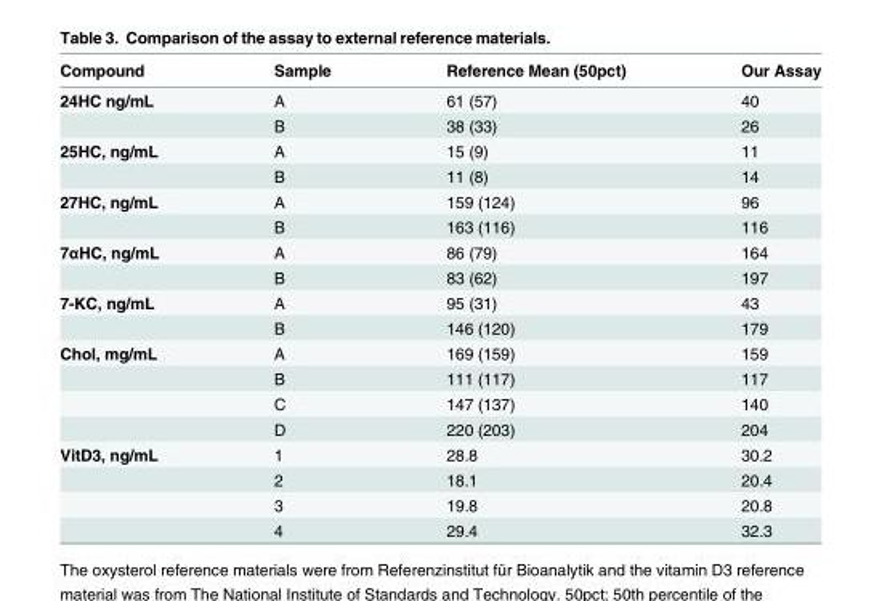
<table><thead><tr><td>Compound</td><td>Sample</td><td>Reference Mean (50pct)</td><td>Our Assay</td></tr></thead><tbody><tr><td rowspan="2">24HC ng/mL</td><td>A</td><td>61 (57)</td><td>40</td></tr><tr><td>B</td><td>38 (33)</td><td>26</td></tr><tr><td rowspan="2">25HC, ng/mL</td><td>A</td><td>15 (9)</td><td>11</td></tr><tr><td>B</td><td>11 (8)</td><td>14</td></tr><tr><td rowspan="2">27HC, ng/mL</td><td>A</td><td>159 (124)</td><td>96</td></tr><tr><td>B</td><td>163 (116)</td><td>116</td></tr><tr><td rowspan="2">7αHC, ng/mL</td><td>A</td><td>86 (79)</td><td>164</td></tr><tr><td>B</td><td>83 (62)</td><td>197</td></tr><tr><td rowspan="2">7-KC, ng/mL</td><td>A</td><td>95 (31)</td><td>43</td></tr><tr><td>B</td><td>146 (120)</td><td>179</td></tr><tr><td rowspan="4">Chol, mg/mL</td><td>A</td><td>169 (159)</td><td>159</td></tr><tr><td>B</td><td>111 (117)</td><td>117</td></tr><tr><td>C</td><td>147 (137)</td><td>140</td></tr><tr><td>D</td><td>220 (203)</td><td>204</td></tr><tr><td rowspan="4">VitD3, ng/mL</td><td>1</td><td>28.8</td><td>30.2</td></tr><tr><td>2</td><td>18.1</td><td>20.4</td></tr><tr><td>3</td><td>19.8</td><td>20.8</td></tr><tr><td>4</td><td>29.4</td><td>32.3</td></tr></tbody></table>